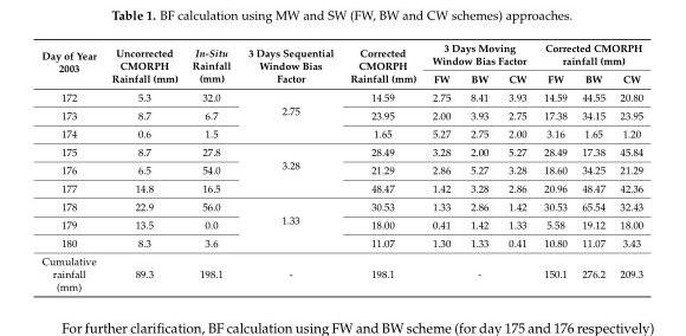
<table><thead><tr><td rowspan="2">Day of Year 2003</td><td rowspan="2">Uncorrected CMORPH Rainfall (mm)</td><td rowspan="2">In-Situ Rainfall (mm)</td><td rowspan="2">3 Days Sequential Window Bias Factor</td><td rowspan="2">Corrected CMORPH Rainfall (mm)</td><td colspan="3">3 Days Moving Window Bias Factor</td><td colspan="3">Corrected CMORPH rainfall (mm)</td></tr><tr><td>FW</td><td>BW</td><td>CW</td><td>FW</td><td>BW</td><td>CW</td></tr></thead><tbody><tr><td>172</td><td>5.3</td><td>32.0</td><td rowspan="3">2.75</td><td>14.59</td><td>2.75</td><td>8.41</td><td>3.93</td><td>14.59</td><td>44.55</td><td>20.80</td></tr><tr><td>173</td><td>8.7</td><td>6.7</td><td>23.95</td><td>2.00</td><td>3.93</td><td>2.75</td><td>17.38</td><td>34.15</td><td>23.95</td></tr><tr><td>174</td><td>0.6</td><td>1.5</td><td>1.65</td><td>5.27</td><td>2.75</td><td>2.00</td><td>3.16</td><td>1.65</td><td>1.20</td></tr><tr><td>175</td><td>8.7</td><td>27.8</td><td rowspan="3">3.28</td><td>28.49</td><td>3.28</td><td>2.00</td><td>5.27</td><td>28.49</td><td>17.38</td><td>45.84</td></tr><tr><td>176</td><td>6.5</td><td>54.0</td><td>21.29</td><td>2.86</td><td>5.27</td><td>3.28</td><td>18.60</td><td>34.25</td><td>21.29</td></tr><tr><td>177</td><td>14.8</td><td>16.5</td><td>48.47</td><td>1.42</td><td>3.28</td><td>2.86</td><td>20.96</td><td>48.47</td><td>42.36</td></tr><tr><td>178</td><td>22.9</td><td>56.0</td><td rowspan="3">1.33</td><td>30.53</td><td>1.33</td><td>2.86</td><td>1.42</td><td>30.53</td><td>65.54</td><td>32.43</td></tr><tr><td>179</td><td>13.5</td><td>0.0</td><td>18.00</td><td>0.41</td><td>1.42</td><td>1.33</td><td>5.58</td><td>19.12</td><td>18.00</td></tr><tr><td>180</td><td>8.3</td><td>3.6</td><td>11.07</td><td>1.30</td><td>1.33</td><td>0.41</td><td>10.80</td><td>11.07</td><td>3.43</td></tr><tr><td>Cumulative rainfall (mm)</td><td>89.3</td><td>198.1</td><td>-</td><td>198.1</td><td colspan="3">-</td><td>150.1</td><td>276.2</td><td>209.3</td></tr></tbody></table>